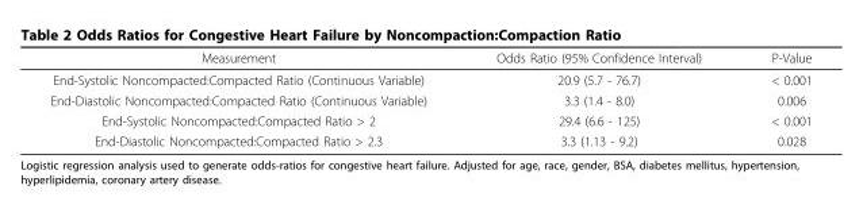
<table><thead><tr><td>Measurement</td><td>Odds Ratio (95% Confidence Interval)</td><td>P-Value</td></tr></thead><tbody><tr><td>End-Systolic Noncompacted:Compacted Ratio (Continuous Variable)</td><td>20.9 (5.7 - 76.7)</td><td>&lt; 0.001</td></tr><tr><td>End-Diastolic Noncompacted:Compacted Ratio (Continuous Variable)</td><td>3.3 (1.4 - 8.0)</td><td>0.006</td></tr><tr><td>End-Systolic Noncompacted:Compacted Ratio &gt; 2</td><td>29.4 (6.6 - 125)</td><td>&lt; 0.001</td></tr><tr><td>End-Diastolic Noncompacted:Compacted Ratio &gt; 2.3</td><td>3.3 (1.13 - 9.2)</td><td>0.028</td></tr></tbody></table>